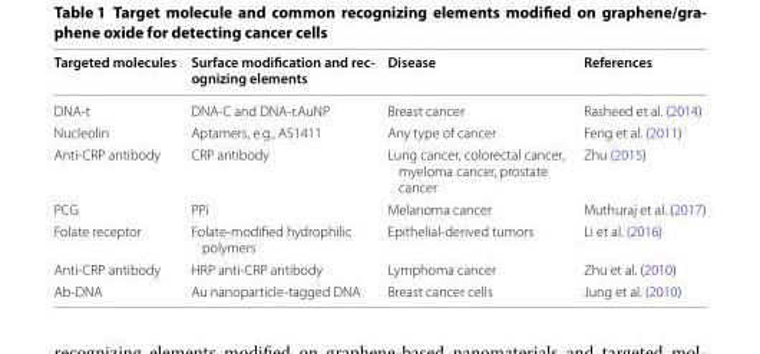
<table><thead><tr><td>Targeted molecules</td><td>Surface modification and rec‑ ognizing elements</td><td>Disease</td><td>References</td></tr></thead><tbody><tr><td>DNA-t</td><td>DNA-C and DNA-r.AuNP</td><td>Breast cancer</td><td>Rasheed et al. (2014)</td></tr><tr><td>Nucleolin</td><td>Aptamers, e.g., AS1411</td><td>Any type of cancer</td><td>Feng et al. (2011)</td></tr><tr><td>Anti-CRP antibody</td><td>CRP antibody</td><td>Lung cancer, colorectal cancer, myeloma cancer, prostate cancer</td><td>Zhu (2015)</td></tr><tr><td>PCG</td><td>PPi</td><td>Melanoma cancer</td><td>Muthuraj et al. (2017)</td></tr><tr><td>Folate receptor</td><td>Folate-modified hydrophilic polymers</td><td>Epithelial-derived tumors</td><td>Li et al. (2016)</td></tr><tr><td>Anti-CRP antibody</td><td>HRP anti-CRP antibody</td><td>Lymphoma cancer</td><td>Zhu et al. (2010)</td></tr><tr><td>Ab-DNA</td><td>Au nanoparticle-tagged DNA</td><td>Breast cancer cells</td><td>Jung et al. (2010)</td></tr></tbody></table>